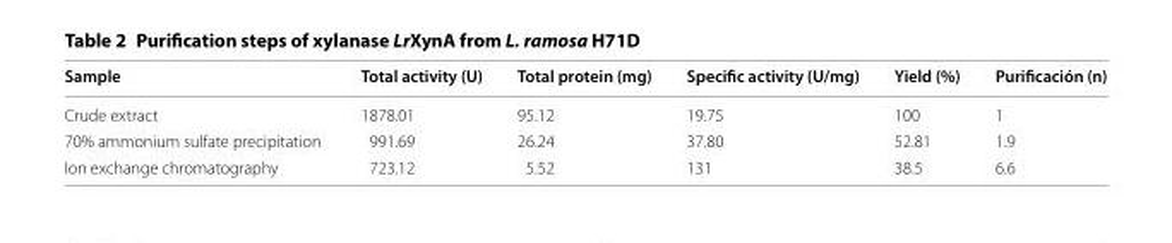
<table><thead><tr><td>Sample</td><td>Total activity (U)</td><td>Total protein (mg)</td><td>Specific activity (U/mg)</td><td>Yield (%)</td><td>Purificación (n)</td></tr></thead><tbody><tr><td>Crude extract</td><td>1878.01</td><td>95.12</td><td>19.75</td><td>100</td><td>1</td></tr><tr><td>70% ammonium sulfate precipitation</td><td>991.69</td><td>26.24</td><td>37.80</td><td>52.81</td><td>1.9</td></tr><tr><td>Ion exchange chromatography</td><td>723.12</td><td>5.52</td><td>131</td><td>38.5</td><td>6.6</td></tr></tbody></table>